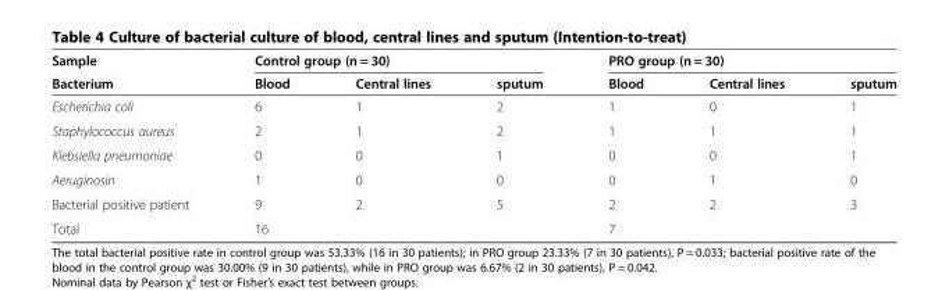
<table><thead><tr><td rowspan="2">Sample Bacterium</td><td colspan="3">Control group (n = 30)</td><td colspan="3">PRO group (n = 30)</td></tr><tr><td>Blood</td><td>Central lines</td><td>sputum</td><td>Blood</td><td>Central lines</td><td>sputum</td></tr></thead><tbody><tr><td>Escherichia coli</td><td>6</td><td>1</td><td>2</td><td>1</td><td>0</td><td>1</td></tr><tr><td>Staphylococcus aureus</td><td>2</td><td>1</td><td>2</td><td>1</td><td>1</td><td>1</td></tr><tr><td>Klebsiella pneumoniae</td><td>0</td><td>0</td><td>1</td><td>0</td><td>0</td><td>1</td></tr><tr><td>Aeruginosin</td><td>1</td><td>0</td><td>0</td><td>0</td><td>1</td><td>0</td></tr><tr><td>Bacterial positive patient</td><td>9</td><td>2</td><td>5</td><td>2</td><td>2</td><td>3</td></tr><tr><td>Total</td><td colspan="3">16</td><td colspan="3">7</td></tr></tbody></table>